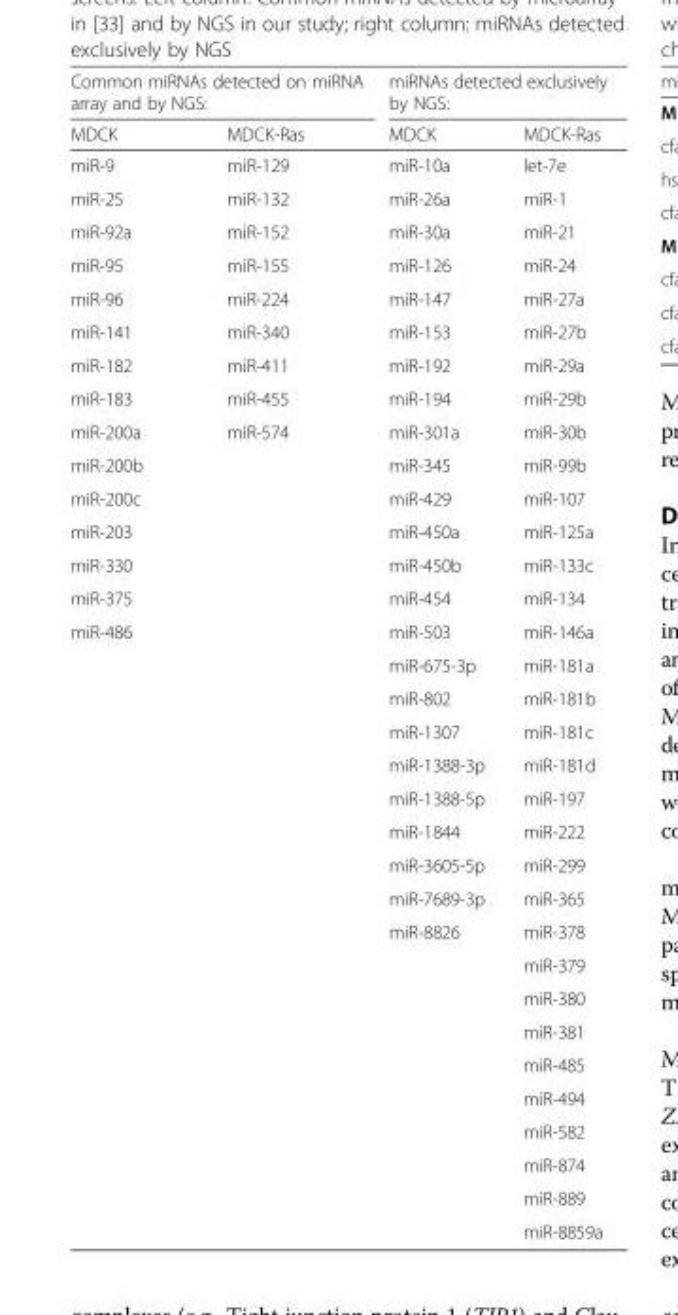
<table><thead><tr><td colspan="2">Common miRNAs detected on miRNA array and by NGS:</td><td colspan="2">miRNAs detected exclusively by NGS:</td></tr><tr><td>MDCK</td><td>MDCK-Ras</td><td>MDCK</td><td>MDCK-Ras</td></tr></thead><tbody><tr><td>miR-9</td><td>miR-129</td><td>miR-10a</td><td>let-7e</td></tr><tr><td>miR-25</td><td>miR-132</td><td>miR-26a</td><td>miR-1</td></tr><tr><td>miR-92a</td><td>miR-152</td><td>miR-30a</td><td>miR-21</td></tr><tr><td>miR-95</td><td>miR-155</td><td>miR-126</td><td>miR-24</td></tr><tr><td>miR-96</td><td>miR-224</td><td>miR-147</td><td>miR-27a</td></tr><tr><td>miR-141</td><td>miR-340</td><td>miR-153</td><td>miR-27b</td></tr><tr><td>miR-182</td><td>miR-411</td><td>miR-192</td><td>miR-29a</td></tr><tr><td>miR-183</td><td>miR-455</td><td>miR-194</td><td>miR-29b</td></tr><tr><td>miR-200a</td><td>miR-574</td><td>miR-301a</td><td>miR-30b</td></tr><tr><td>miR-200b</td><td></td><td>miR-345</td><td>miR-99b</td></tr><tr><td>miR-200c</td><td></td><td>miR-429</td><td>miR-107</td></tr><tr><td>miR-203</td><td></td><td>miR-450a</td><td>miR-125a</td></tr><tr><td>miR-330</td><td></td><td>miR-450b</td><td>miR-133c</td></tr><tr><td>miR-375</td><td></td><td>miR-454</td><td>miR-134</td></tr><tr><td rowspan="19">miR-486</td><td></td><td>miR-503</td><td>miR-146a</td></tr><tr><td></td><td>miR-675-3p</td><td>miR-181a</td></tr><tr><td></td><td>miR-802</td><td>miR-181b</td></tr><tr><td></td><td>miR-1307</td><td>miR-181c</td></tr><tr><td></td><td>miR-1388-3p</td><td>miR-181d</td></tr><tr><td></td><td>miR-1388-5p</td><td>miR-197</td></tr><tr><td></td><td>miR-1844</td><td>miR-222</td></tr><tr><td></td><td>miR-3605-5p</td><td>miR-299</td></tr><tr><td></td><td>miR-7689-3p</td><td>miR-365</td></tr><tr><td></td><td>miR-8826</td><td>miR-378</td></tr><tr><td></td><td></td><td>miR-379</td></tr><tr><td></td><td></td><td>miR-380</td></tr><tr><td></td><td></td><td>miR-381</td></tr><tr><td></td><td></td><td>miR-485</td></tr><tr><td></td><td></td><td>miR-494</td></tr><tr><td></td><td></td><td>miR-582</td></tr><tr><td></td><td></td><td>miR-874</td></tr><tr><td></td><td></td><td>miR-889</td></tr><tr><td></td><td></td><td>miR-8859a</td></tr></tbody></table>